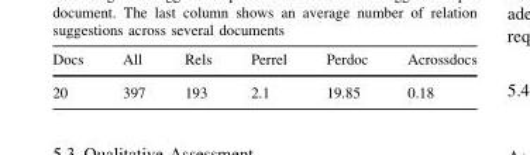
<table><thead><tr><td>Docs</td><td>All</td><td>Rels</td><td>Perrel</td><td>Perdoc</td><td>Acrossdocs</td></tr></thead><tbody><tr><td>20</td><td>397</td><td>193</td><td>2.1</td><td>19.85</td><td>0.18</td></tr></tbody></table>